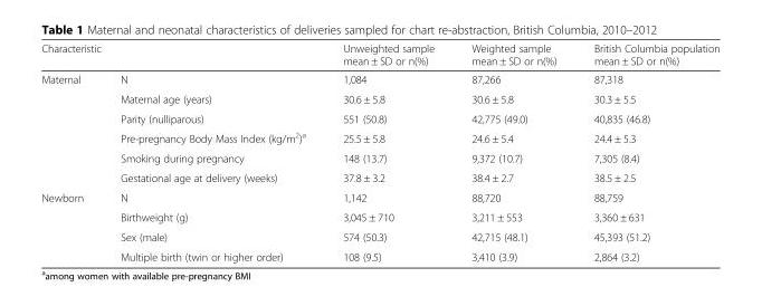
<table><thead><tr><td colspan="2">Characteristic</td><td rowspan="2">Unweighted sample mean ± SD or n(%) 1,084</td><td rowspan="2">Weighted sample mean ± SD or n(%) 87,266</td><td rowspan="2">British Columbia population mean ± SD or n(%) 87,318</td></tr><tr><td>Maternal</td><td>N</td></tr></thead><tbody><tr><td></td><td>Maternal age (years)</td><td>30.6 ± 5.8</td><td>30.6 ± 5.8</td><td>30.3 ± 5.5</td></tr><tr><td></td><td>Parity (nulliparous)</td><td>551 (50.8)</td><td>42,775 (49.0)</td><td>40,835 (46.8)</td></tr><tr><td></td><td>Pre-pregnancy Body Mass Index (kg/m<sup>2</sup>)<sup>a</sup></td><td>25.5 ± 5.8</td><td>24.6 ± 5.4</td><td>24.4 ± 5.3</td></tr><tr><td></td><td>Smoking during pregnancy</td><td>148 (13.7)</td><td>9,372 (10.7)</td><td>7,305 (8.4)</td></tr><tr><td></td><td>Gestational age at delivery (weeks)</td><td>37.8 ± 3.2</td><td>38.4 ± 2.7</td><td>38.5 ± 2.5</td></tr><tr><td rowspan="4">Newborn</td><td>N</td><td>1,142</td><td>88,720</td><td>88,759</td></tr><tr><td>Birthweight (g)</td><td>3,045 ± 710</td><td>3,211 ± 553</td><td>3,360 ± 631</td></tr><tr><td>Sex (male)</td><td>574 (50.3)</td><td>42,715 (48.1)</td><td>45,393 (51.2)</td></tr><tr><td>Multiple birth (twin or higher order)</td><td>108 (9.5)</td><td>3,410 (3.9)</td><td>2,864 (3.2)</td></tr></tbody></table>